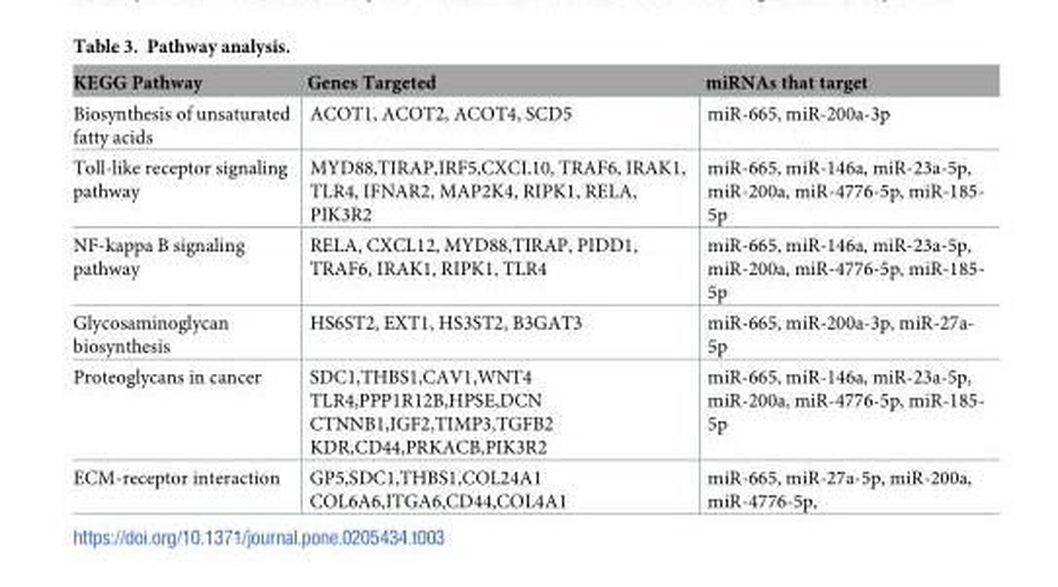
<table><thead><tr><td>KEGG Pathway</td><td>Genes Targeted</td><td>miRNAs that target</td></tr></thead><tbody><tr><td>Biosynthesis of unsaturated fatty acids</td><td>ACOT1, ACOT2, ACOT4, SCD5</td><td>miR-665, miR-200a-3p</td></tr><tr><td>Toll-like receptor signaling pathway</td><td>MYD88,TIRAP,IRF5,CXCL10, TRAF6, IRAK1, TLR4, IFNAR2, MAP2K4, RIPK1, RELA, PIK3R2</td><td>miR-665, miR-146a, miR-23a-5p, miR-200a, miR-4776-5p, miR-185- 5p</td></tr><tr><td>NF-kappa B signaling pathway</td><td>RELA, CXCL12, MYD88,TIRAP, PIDD1, TRAF6, IRAK1, RIPK1, TLR4</td><td>miR-665, miR-146a, miR-23a-5p, miR-200a, miR-4776-5p, miR-185- 5p</td></tr><tr><td>Glycosaminoglycan biosynthesis</td><td>HS6ST2, EXT1, HS3ST2, B3GAT3</td><td>miR-665, miR-200a-3p, miR-27a- 5p</td></tr><tr><td>Proteoglycans in cancer</td><td>SDC1,THBS1,CAV1,WNT4 TLR4,PPP1R12B,HPSE,DCN CTNNB1,IGF2,TIMP3,TGFB2 KDR,CD44,PRKACB,PIK3R2</td><td>miR-665, miR-146a, miR-23a-5p, miR-200a, miR-4776-5p, miR-185- 5p</td></tr><tr><td>ECM-receptor interaction</td><td>GP5,SDC1,THBS1,COL24A1 COL6A6,ITGA6,CD44,COL4A1</td><td>miR-665, miR-27a-5p, miR-200a, miR-4776-5p,</td></tr></tbody></table>